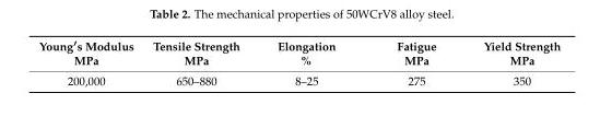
<table><thead><tr><td>Young′s Modulus MPa</td><td>Tensile Strength MPa</td><td>Elongation %</td><td>Fatigue MPa</td><td>Yield Strength MPa</td></tr></thead><tbody><tr><td>200,000</td><td>650–880</td><td>8–25</td><td>275</td><td>350</td></tr></tbody></table>